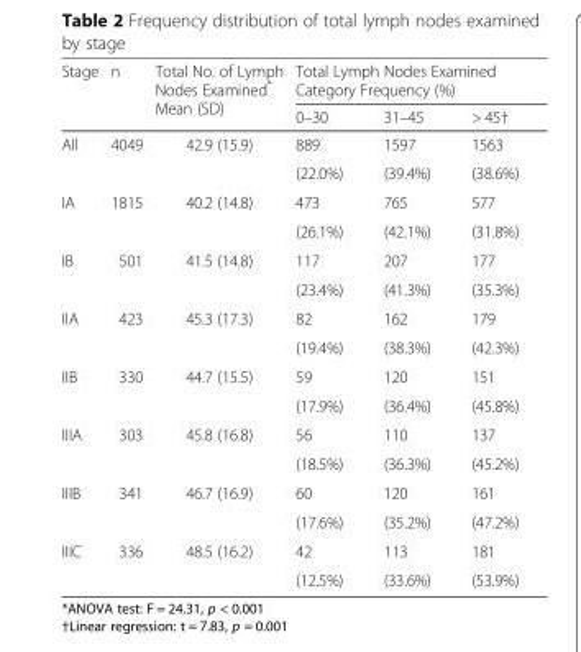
<table><thead><tr><td rowspan="2">Stage</td><td rowspan="2">n</td><td rowspan="2">Total No. of Lymph Nodes Examined* Mean (SD)</td><td colspan="3">Total Lymph Nodes Examined Category Frequency (%)</td></tr><tr><td>0–30</td><td>31–45</td><td>&gt; 45†</td></tr></thead><tbody><tr><td rowspan="2">All</td><td rowspan="2">4049</td><td rowspan="2">42.9 (15.9)</td><td>889</td><td>1597</td><td>1563</td></tr><tr><td>(22.0%)</td><td>(39.4%)</td><td>(38.6%)</td></tr><tr><td rowspan="2">IA</td><td rowspan="2">1815</td><td rowspan="2">40.2 (14.8)</td><td>473</td><td>765</td><td>577</td></tr><tr><td>(26.1%)</td><td>(42.1%)</td><td>(31.8%)</td></tr><tr><td rowspan="2">IB</td><td rowspan="2">501</td><td rowspan="2">41.5 (14.8)</td><td>117</td><td>207</td><td>177</td></tr><tr><td>(23.4%)</td><td>(41.3%)</td><td>(35.3%)</td></tr><tr><td rowspan="2">IIA</td><td rowspan="2">423</td><td rowspan="2">45.3 (17.3)</td><td>82</td><td>162</td><td>179</td></tr><tr><td>(19.4%)</td><td>(38.3%)</td><td>(42.3%)</td></tr><tr><td rowspan="2">IIB</td><td rowspan="2">330</td><td rowspan="2">44.7 (15.5)</td><td>59</td><td>120</td><td>151</td></tr><tr><td>(17.9%)</td><td>(36.4%)</td><td>(45.8%)</td></tr><tr><td rowspan="2">IIIA</td><td rowspan="2">303</td><td rowspan="2">45.8 (16.8)</td><td>56</td><td>110</td><td>137</td></tr><tr><td>(18.5%)</td><td>(36.3%)</td><td>(45.2%)</td></tr><tr><td rowspan="2">IIIB</td><td rowspan="2">341</td><td rowspan="2">46.7 (16.9)</td><td>60</td><td>120</td><td>161</td></tr><tr><td>(17.6%)</td><td>(35.2%)</td><td>(47.2%)</td></tr><tr><td rowspan="2">IIIC</td><td rowspan="2">336</td><td rowspan="2">48.5 (16.2)</td><td>42</td><td>113</td><td>181</td></tr><tr><td>(12.5%)</td><td>(33.6%)</td><td>(53.9%)</td></tr></tbody></table>